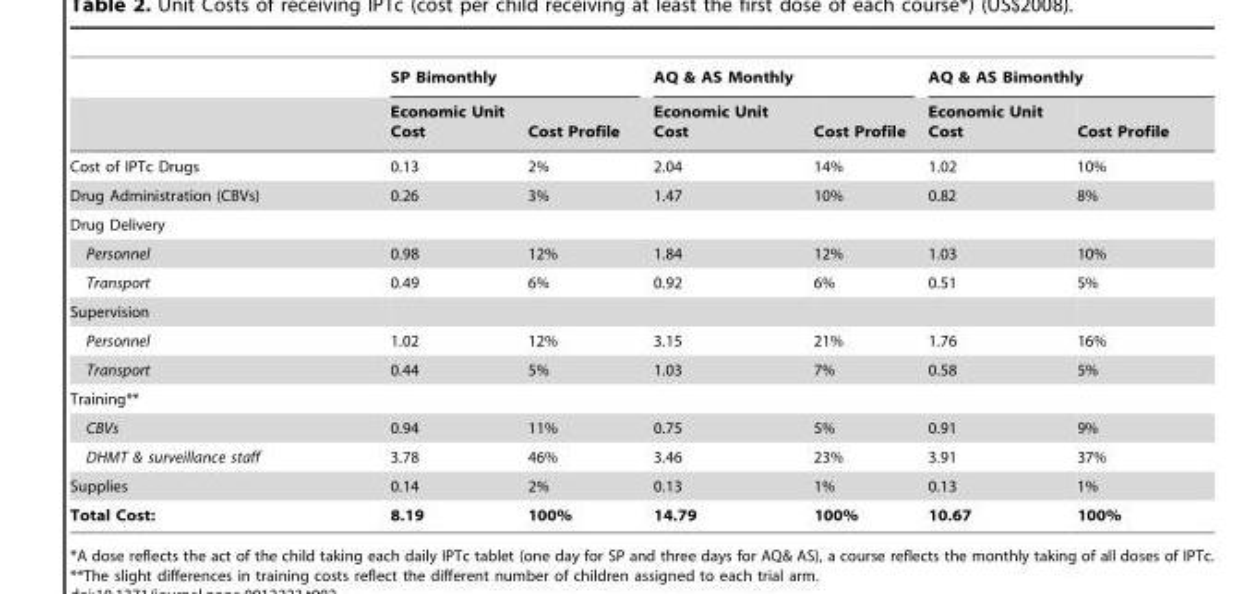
<table><thead><tr><td rowspan="2"></td><td colspan="2">SP Bimonthly</td><td colspan="2">AQ &amp; AS Monthly</td><td colspan="2">AQ &amp; AS Bimonthly</td></tr><tr><td>Economic Unit Cost</td><td>Cost Profile</td><td>Economic Unit Cost</td><td>Cost Profile</td><td>Economic Unit Cost</td><td>Cost Profile</td></tr></thead><tbody><tr><td>Cost of IPTc Drugs</td><td>0.13</td><td>2%</td><td>2.04</td><td>14%</td><td>1.02</td><td>10%</td></tr><tr><td>Drug Administration (CBVs)</td><td>0.26</td><td>3%</td><td>1.47</td><td>10%</td><td>0.82</td><td>8%</td></tr><tr><td colspan="7">Drug Delivery</td></tr><tr><td>Personnel</td><td>0.98</td><td>12%</td><td>1.84</td><td>12%</td><td>1.03</td><td>10%</td></tr><tr><td>Transport</td><td>0.49</td><td>6%</td><td>0.92</td><td>6%</td><td>0.51</td><td>5%</td></tr><tr><td colspan="7">Supervision</td></tr><tr><td>Personnel</td><td>1.02</td><td>12%</td><td>3.15</td><td>21%</td><td>1.76</td><td>16%</td></tr><tr><td>Transport</td><td>0.44</td><td>5%</td><td>1.03</td><td>7%</td><td>0.58</td><td>5%</td></tr><tr><td colspan="7">Training**</td></tr><tr><td>CBVs</td><td>0.94</td><td>11%</td><td>0.75</td><td>5%</td><td>0.91</td><td>9%</td></tr><tr><td>DHMT &amp; surveillance staff</td><td>3.78</td><td>46%</td><td>3.46</td><td>23%</td><td>3.91</td><td>37%</td></tr><tr><td>Supplies</td><td>0.14</td><td>2%</td><td>0.13</td><td>1%</td><td>0.13</td><td>1%</td></tr><tr><td>Total Cost:</td><td>8.19</td><td>100%</td><td>14.79</td><td>100%</td><td>10.67</td><td>100%</td></tr></tbody></table>